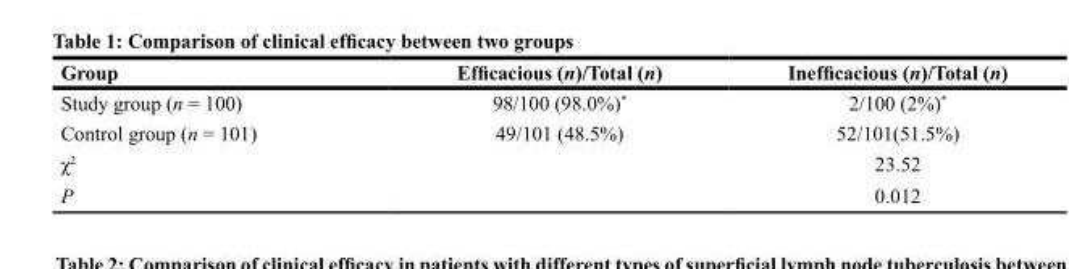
<table><thead><tr><td>Group</td><td>Efficacious (n)/Total (n)</td><td>Inefficacious (n)/Total (n)</td></tr></thead><tbody><tr><td>Study group (n = 100)</td><td>98/100 (98.0%)*</td><td>2/100 (2%)*</td></tr><tr><td>Control group (n = 101)</td><td>49/101 (48.5%)</td><td>52/101(51.5%)</td></tr><tr><td>χ<sup>2</sup></td><td></td><td>23.52</td></tr><tr><td>P</td><td></td><td>0.012</td></tr></tbody></table>